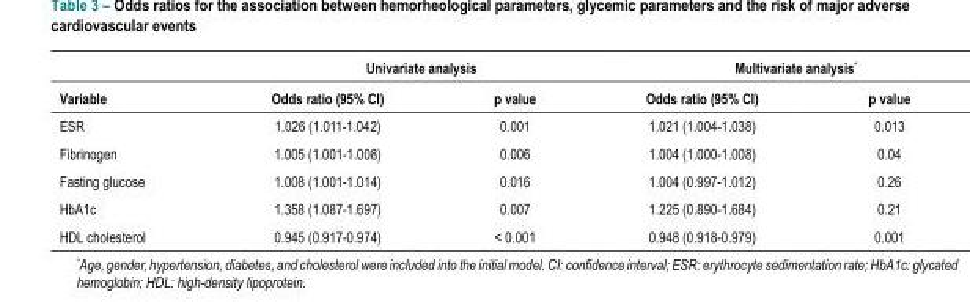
<table><thead><tr><td rowspan="2">Variable</td><td colspan="2">Univariate analysis</td><td colspan="2">Multivariate analysis*</td></tr><tr><td>Odds ratio (95% CI)</td><td>p value</td><td>Odds ratio (95% CI)</td><td>p value</td></tr></thead><tbody><tr><td>ESR</td><td>1.026 (1.011-1.042)</td><td>0.001</td><td>1.021 (1.004-1.038)</td><td>0.013</td></tr><tr><td>Fibrinogen</td><td>1.005 (1.001-1.008)</td><td>0.006</td><td>1.004 (1.000-1.008)</td><td>0.04</td></tr><tr><td>Fasting glucose</td><td>1.008 (1.001-1.014)</td><td>0.016</td><td>1.004 (0.997-1.012)</td><td>0.26</td></tr><tr><td>HbA1c</td><td>1.358 (1.087-1.697)</td><td>0.007</td><td>1.225 (0.890-1.684)</td><td>0.21</td></tr><tr><td>HDL cholesterol</td><td>0.945 (0.917-0.974)</td><td>&lt; 0.001</td><td>0.948 (0.918-0.979)</td><td>0.001</td></tr></tbody></table>